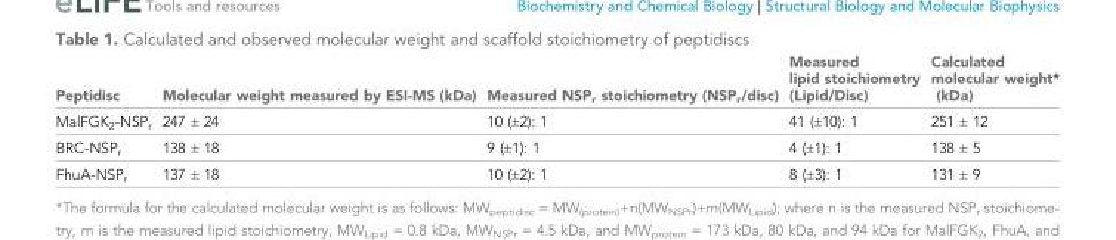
<table><thead><tr><td>Peptidisc</td><td>Molecular weight measured by ESI-MS (kDa)</td><td>Measured NSP<sub>r</sub> stoichiometry (NSP<sub>r</sub>/disc)</td><td>Measured lipid stoichiometry (Lipid/Disc)</td><td>Calculated molecular weight* (kDa)</td></tr></thead><tbody><tr><td>MalFGK<sub>2</sub>-NSP<sub>r</sub></td><td>247 ± 24</td><td>10 (±2): 1</td><td>41 (±10): 1</td><td>251 ± 12</td></tr><tr><td>BRC-NSP<sub>r</sub></td><td>138 ± 18</td><td>9 (±1): 1</td><td>4 (±1): 1</td><td>138 ± 5</td></tr><tr><td>FhuA-NSP<sub>r</sub></td><td>137 ± 18</td><td>10 (±2): 1</td><td>8 (±3): 1</td><td>131 ± 9</td></tr></tbody></table>